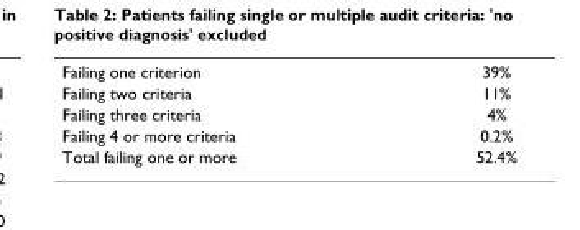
<table><tbody><tr><td>Failing one criterion</td><td>39%</td></tr><tr><td>Failing two criteria</td><td>11%</td></tr><tr><td>Failing three criteria</td><td>4%</td></tr><tr><td>Failing 4 or more criteria</td><td>0.2%</td></tr><tr><td>Total failing one or more</td><td>52.4%</td></tr></tbody></table>